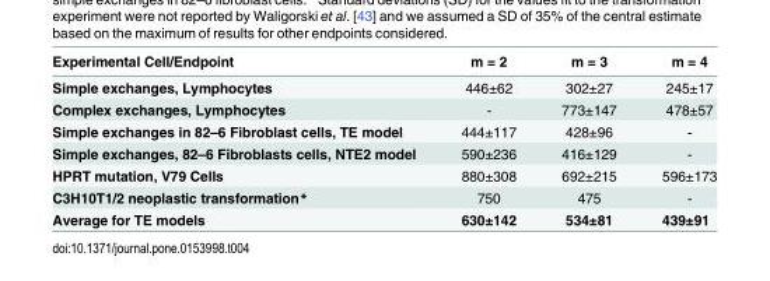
<table><thead><tr><td>Experimental Cell/Endpoint</td><td>m = 2</td><td>m = 3</td><td>m = 4</td></tr></thead><tbody><tr><td>Simple exchanges, Lymphocytes</td><td>446±62</td><td>302±27</td><td>245±17</td></tr><tr><td>Complex exchanges, Lymphocytes</td><td>-</td><td>773±147</td><td>478±57</td></tr><tr><td>Simple exchanges in 82–6 Fibroblast cells, TE model</td><td>444±117</td><td>428±96</td><td>-</td></tr><tr><td>Simple exchanges, 82–6 Fibroblasts cells, NTE2 model</td><td>590±236</td><td>416±129</td><td>-</td></tr><tr><td>HPRT mutation, V79 Cells</td><td>880±308</td><td>692±215</td><td>596±173</td></tr><tr><td>C3H10T1/2 neoplastic transformation*</td><td>750</td><td>475</td><td>-</td></tr><tr><td>Average for TE models</td><td>630±142</td><td>534±81</td><td>439±91</td></tr></tbody></table>